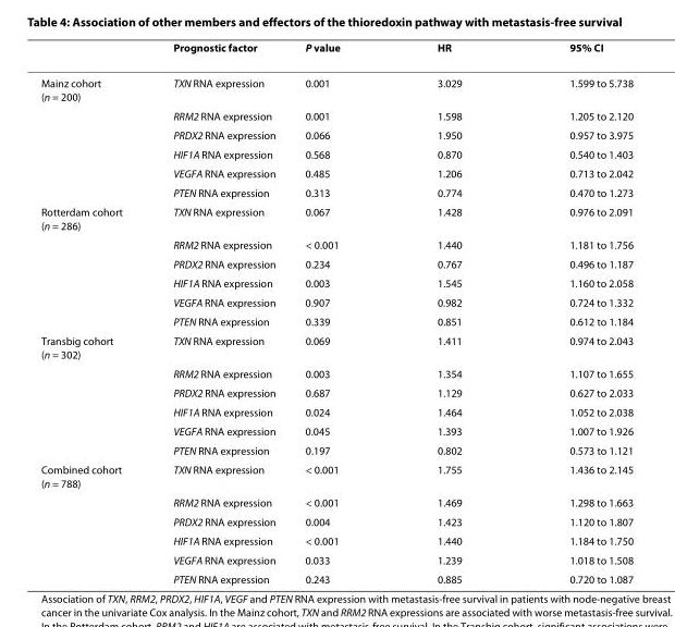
<table><thead><tr><td></td><td>Prognostic factor</td><td>P value</td><td>HR</td><td>95% CI</td></tr></thead><tbody><tr><td rowspan="6">Mainz cohort (n = 200)</td><td>TXN RNA expression</td><td>0.001</td><td>3.029</td><td>1.599 to 5.738</td></tr><tr><td>RRM2 RNA expression</td><td>0.001</td><td>1.598</td><td>1.205 to 2.120</td></tr><tr><td>PRDX2 RNA expression</td><td>0.066</td><td>1.950</td><td>0.957 to 3.975</td></tr><tr><td>HIF1A RNA expression</td><td>0.568</td><td>0.870</td><td>0.540 to 1.403</td></tr><tr><td>VEGFA RNA expression</td><td>0.485</td><td>1.206</td><td>0.713 to 2.042</td></tr><tr><td>PTEN RNA expression</td><td>0.313</td><td>0.774</td><td>0.470 to 1.273</td></tr><tr><td rowspan="6">Rotterdam cohort (n = 286)</td><td>TXN RNA expression</td><td>0.067</td><td>1.428</td><td>0.976 to 2.091</td></tr><tr><td>RRM2 RNA expression</td><td>&lt; 0.001</td><td>1.440</td><td>1.181 to 1.756</td></tr><tr><td>PRDX2 RNA expression</td><td>0.234</td><td>0.767</td><td>0.496 to 1.187</td></tr><tr><td>HIF1A RNA expression</td><td>0.003</td><td>1.545</td><td>1.160 to 2.058</td></tr><tr><td>VEGFA RNA expression</td><td>0.907</td><td>0.982</td><td>0.724 to 1.332</td></tr><tr><td>PTEN RNA expression</td><td>0.339</td><td>0.851</td><td>0.612 to 1.184</td></tr><tr><td rowspan="6">Transbig cohort (n = 302)</td><td>TXN RNA expression</td><td>0.069</td><td>1.411</td><td>0.974 to 2.043</td></tr><tr><td>RRM2 RNA expression</td><td>0.003</td><td>1.354</td><td>1.107 to 1.655</td></tr><tr><td>PRDX2 RNA expression</td><td>0.687</td><td>1.129</td><td>0.627 to 2.033</td></tr><tr><td>HIF1A RNA expression</td><td>0.024</td><td>1.464</td><td>1.052 to 2.038</td></tr><tr><td>VEGFA RNA expression</td><td>0.045</td><td>1.393</td><td>1.007 to 1.926</td></tr><tr><td>PTEN RNA expression</td><td>0.197</td><td>0.802</td><td>0.573 to 1.121</td></tr><tr><td rowspan="6">Combined cohort (n = 788)</td><td>TXN RNA expression</td><td>&lt; 0.001</td><td>1.755</td><td>1.436 to 2.145</td></tr><tr><td>RRM2 RNA expression</td><td>&lt; 0.001</td><td>1.469</td><td>1.298 to 1.663</td></tr><tr><td>PRDX2 RNA expression</td><td>0.004</td><td>1.423</td><td>1.120 to 1.807</td></tr><tr><td>HIF1A RNA expression</td><td>&lt; 0.001</td><td>1.440</td><td>1.184 to 1.750</td></tr><tr><td>VEGFA RNA expression</td><td>0.033</td><td>1.239</td><td>1.018 to 1.508</td></tr><tr><td>PTEN RNA expression</td><td>0.243</td><td>0.885</td><td>0.720 to 1.087</td></tr></tbody></table>